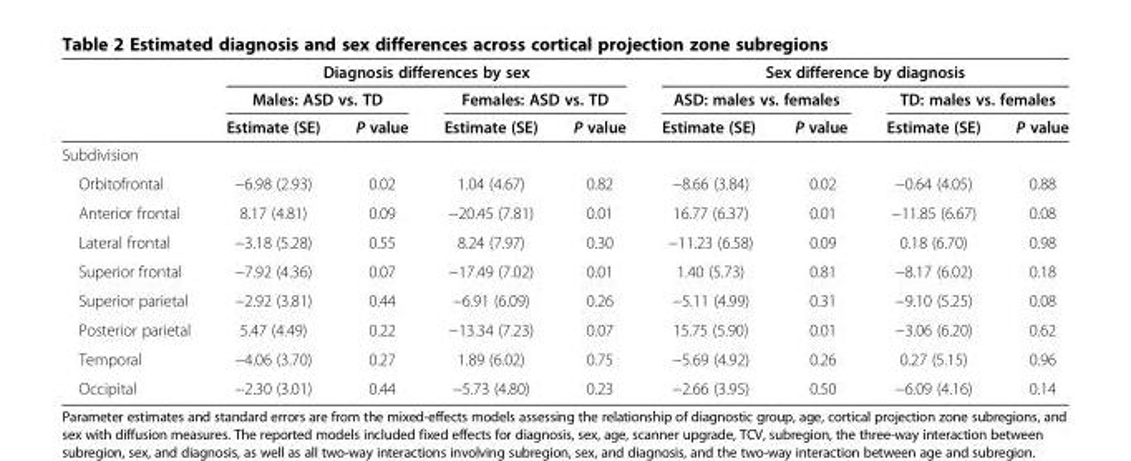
<table><thead><tr><td rowspan="3"></td><td colspan="4">Diagnosis differences by sex</td><td colspan="4">Sex difference by diagnosis</td></tr><tr><td colspan="2">Males: ASD vs. TD</td><td colspan="2">Females: ASD vs. TD</td><td colspan="2">ASD: males vs. females</td><td colspan="2">TD: males vs. females</td></tr><tr><td>Estimate (SE)</td><td>P value</td><td>Estimate (SE)</td><td>P value</td><td>Estimate (SE)</td><td>P value</td><td>Estimate (SE)</td><td>P value</td></tr></thead><tbody><tr><td colspan="9">Subdivision</td></tr><tr><td>Orbitofrontal</td><td>−6.98 (2.93)</td><td>0.02</td><td>1.04 (4.67)</td><td>0.82</td><td>−8.66 (3.84)</td><td>0.02</td><td>−0.64 (4.05)</td><td>0.88</td></tr><tr><td>Anterior frontal</td><td>8.17 (4.81)</td><td>0.09</td><td>−20.45 (7.81)</td><td>0.01</td><td>16.77 (6.37)</td><td>0.01</td><td>−11.85 (6.67)</td><td>0.08</td></tr><tr><td>Lateral frontal</td><td>−3.18 (5.28)</td><td>0.55</td><td>8.24 (7.97)</td><td>0.30</td><td>−11.23 (6.58)</td><td>0.09</td><td>0.18 (6.70)</td><td>0.98</td></tr><tr><td>Superior frontal</td><td>−7.92 (4.36)</td><td>0.07</td><td>−17.49 (7.02)</td><td>0.01</td><td>1.40 (5.73)</td><td>0.81</td><td>−8.17 (6.02)</td><td>0.18</td></tr><tr><td>Superior parietal</td><td>−2.92 (3.81)</td><td>0.44</td><td>−6.91 (6.09)</td><td>0.26</td><td>−5.11 (4.99)</td><td>0.31</td><td>−9.10 (5.25)</td><td>0.08</td></tr><tr><td>Posterior parietal</td><td>5.47 (4.49)</td><td>0.22</td><td>−13.34 (7.23)</td><td>0.07</td><td>15.75 (5.90)</td><td>0.01</td><td>−3.06 (6.20)</td><td>0.62</td></tr><tr><td>Temporal</td><td>−4.06 (3.70)</td><td>0.27</td><td>1.89 (6.02)</td><td>0.75</td><td>−5.69 (4.92)</td><td>0.26</td><td>0.27 (5.15)</td><td>0.96</td></tr><tr><td>Occipital</td><td>−2.30 (3.01)</td><td>0.44</td><td>−5.73 (4.80)</td><td>0.23</td><td>−2.66 (3.95)</td><td>0.50</td><td>−6.09 (4.16)</td><td>0.14</td></tr></tbody></table>